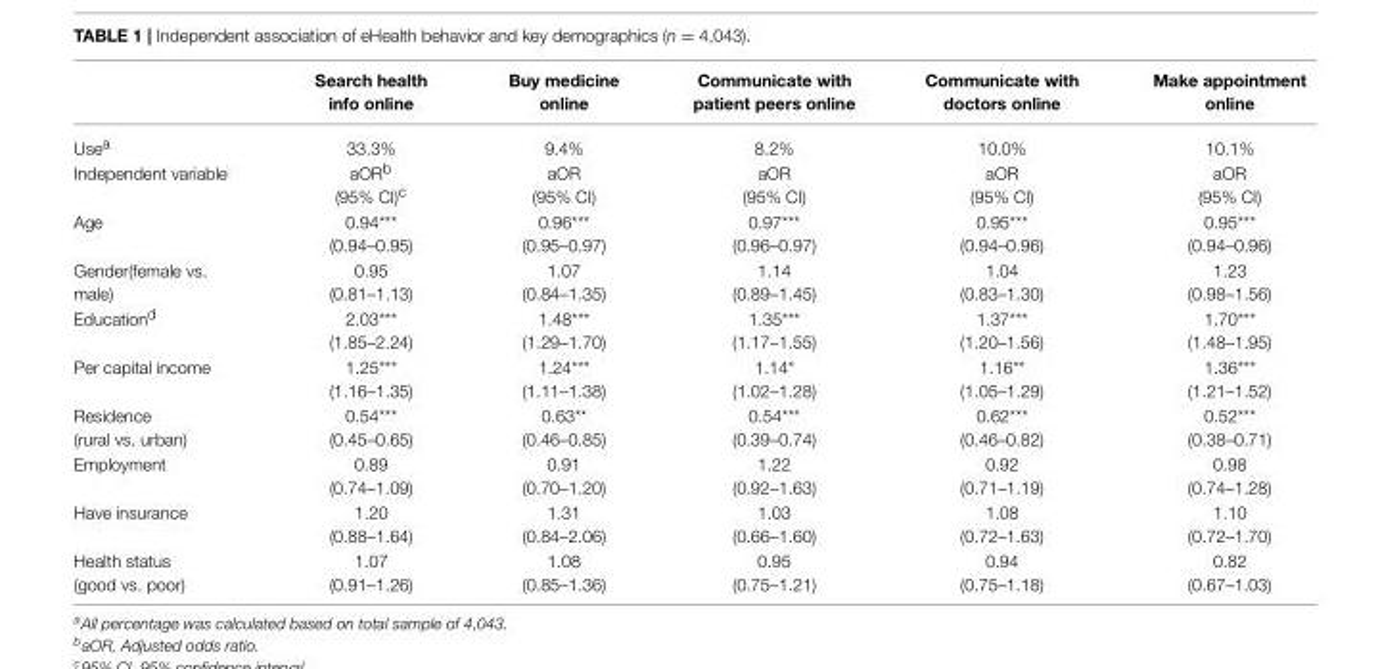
<table><thead><tr><td></td><td>Search health info online</td><td>Buy medicine online</td><td>Communicate with patient peers online</td><td>Communicate with doctors online</td><td>Make appointment online</td></tr></thead><tbody><tr><td>Use<sup>a</sup></td><td>33.3%</td><td>9.4%</td><td>8.2%</td><td>10.0%</td><td>10.1%</td></tr><tr><td>Independent variable</td><td>aOR<sup>b</sup> (95% CI)<sup>c</sup></td><td>aOR (95% CI)</td><td>aOR (95% CI)</td><td>aOR (95% CI)</td><td>aOR (95% CI)</td></tr><tr><td>Age</td><td>0.94*** (0.94–0.95)</td><td>0.96*** (0.95–0.97)</td><td>0.97*** (0.96–0.97)</td><td>0.95*** (0.94–0.96)</td><td>0.95*** (0.94–0.96)</td></tr><tr><td>Gender(female vs. male)</td><td>0.95 (0.81–1.13)</td><td>1.07 (0.84–1.35)</td><td>1.14 (0.89–1.45)</td><td>1.04 (0.83–1.30)</td><td>1.23 (0.98–1.56)</td></tr><tr><td>Education<sup>d</sup></td><td>2.03*** (1.85–2.24)</td><td>1.48*** (1.29–1.70)</td><td>1.35*** (1.17–1.55)</td><td>1.37*** (1.20–1.56)</td><td>1.70*** (1.48–1.95)</td></tr><tr><td>Per capital income</td><td>1.25*** (1.16–1.35)</td><td>1.24*** (1.11–1.38)</td><td>1.14* (1.02–1.28)</td><td>1.16** (1.05–1.29)</td><td>1.36*** (1.21–1.52)</td></tr><tr><td>Residence (rural vs. urban)</td><td>0.54*** (0.45–0.65)</td><td>0.63** (0.46–0.85)</td><td>0.54*** (0.39–0.74)</td><td>0.62*** (0.46–0.82)</td><td>0.52*** (0.38–0.71)</td></tr><tr><td>Employment</td><td>0.89 (0.74–1.09)</td><td>0.91 (0.70–1.20)</td><td>1.22 (0.92–1.63)</td><td>0.92 (0.71–1.19)</td><td>0.98 (0.74–1.28)</td></tr><tr><td>Have insurance</td><td>1.20 (0.88–1.64)</td><td>1.31 (0.84–2.06)</td><td>1.03 (0.66–1.60)</td><td>1.08 (0.72–1.63)</td><td>1.10 (0.72–1.70)</td></tr><tr><td>Health status (good vs. poor)</td><td>1.07 (0.91–1.26)</td><td>1.08 (0.85–1.36)</td><td>0.95 (0.75–1.21)</td><td>0.94 (0.75–1.18)</td><td>0.82 (0.67–1.03)</td></tr></tbody></table>